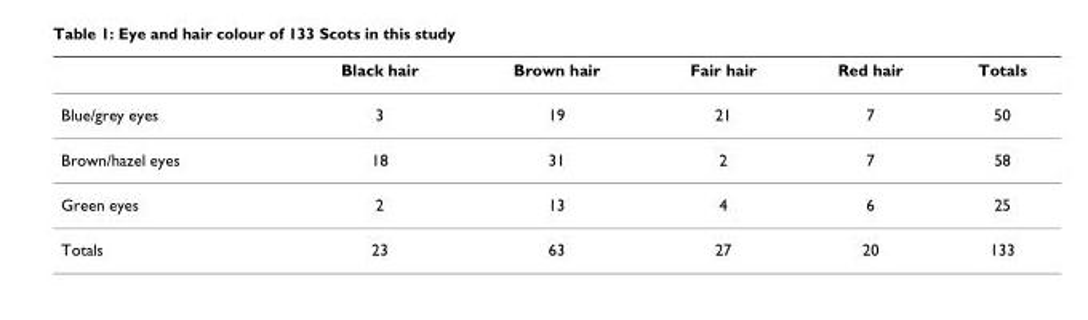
<table><thead><tr><td></td><td>Black hair</td><td>Brown hair</td><td>Fair hair</td><td>Red hair</td><td>Totals</td></tr></thead><tbody><tr><td>Blue/grey eyes</td><td>3</td><td>19</td><td>21</td><td>7</td><td>50</td></tr><tr><td>Brown/hazel eyes</td><td>18</td><td>31</td><td>2</td><td>7</td><td>58</td></tr><tr><td>Green eyes</td><td>2</td><td>13</td><td>4</td><td>6</td><td>25</td></tr><tr><td>Totals</td><td>23</td><td>63</td><td>27</td><td>20</td><td>133</td></tr></tbody></table>